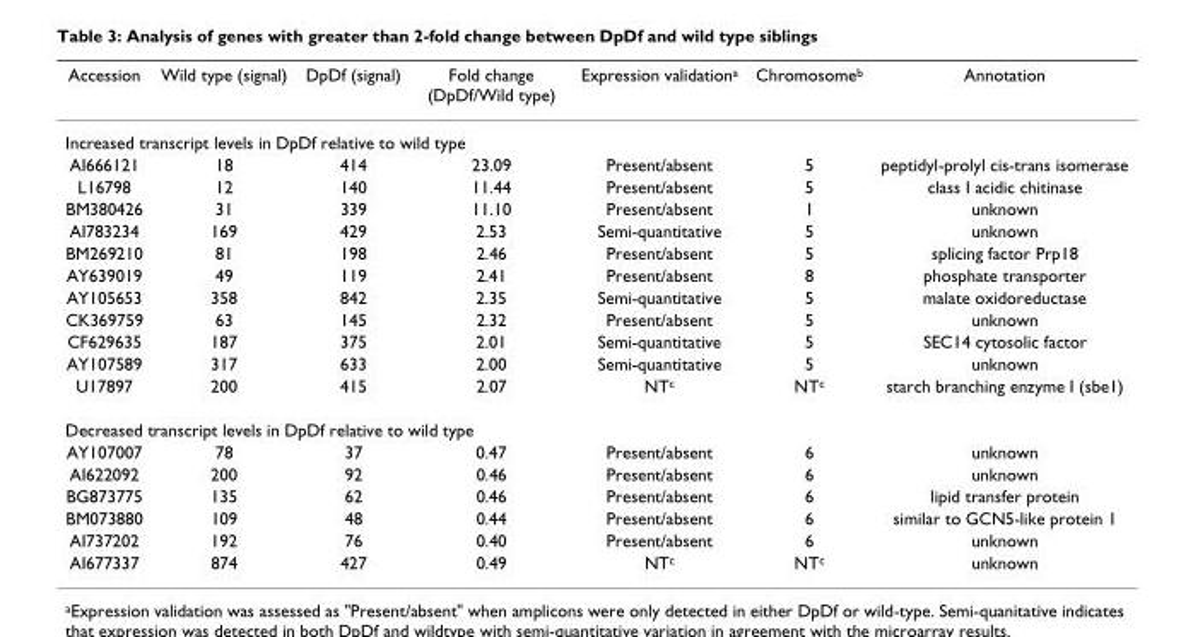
<table><thead><tr><td>Accession</td><td>Wild type (signal)</td><td>DpDf (signal)</td><td>Fold change (DpDf/Wild type)</td><td>Expression validation<sup>a</sup></td><td>Chromosome<sup>b</sup></td><td>Annotation</td></tr></thead><tbody><tr><td colspan="7">Increased transcript levels in DpDf relative to wild type</td></tr><tr><td>AI666121</td><td>18</td><td>414</td><td>23.09</td><td>Present/absent</td><td>5</td><td>peptidyl-prolyl cis-trans isomerase</td></tr><tr><td>L16798</td><td>12</td><td>140</td><td>11.44</td><td>Present/absent</td><td>5</td><td>class I acidic chitinase</td></tr><tr><td>BM380426</td><td>31</td><td>339</td><td>11.10</td><td>Present/absent</td><td>1</td><td>unknown</td></tr><tr><td>AI783234</td><td>169</td><td>429</td><td>2.53</td><td>Semi-quantitative</td><td>5</td><td>unknown</td></tr><tr><td>BM269210</td><td>81</td><td>198</td><td>2.46</td><td>Present/absent</td><td>5</td><td>splicing factor Prp18</td></tr><tr><td>AY639019</td><td>49</td><td>119</td><td>2.41</td><td>Present/absent</td><td>8</td><td>phosphate transporter</td></tr><tr><td>AY105653</td><td>358</td><td>842</td><td>2.35</td><td>Semi-quantitative</td><td>5</td><td>malate oxidoreductase</td></tr><tr><td>CK369759</td><td>63</td><td>145</td><td>2.32</td><td>Present/absent</td><td>5</td><td>unknown</td></tr><tr><td>CF629635</td><td>187</td><td>375</td><td>2.01</td><td>Semi-quantitative</td><td>5</td><td>SEC14 cytosolic factor</td></tr><tr><td>AY107589</td><td>317</td><td>633</td><td>2.00</td><td>Semi-quantitative</td><td>5</td><td>unknown</td></tr><tr><td>U17897</td><td>200</td><td>415</td><td>2.07</td><td>NT<sup>c</sup></td><td>NT<sup>c</sup></td><td>starch branching enzyme I (sbe1)</td></tr><tr><td colspan="7">Decreased transcript levels in DpDf relative to wild type</td></tr><tr><td>AY107007</td><td>78</td><td>37</td><td>0.47</td><td>Present/absent</td><td>6</td><td>unknown</td></tr><tr><td>AI622092</td><td>200</td><td>92</td><td>0.46</td><td>Present/absent</td><td>6</td><td>unknown</td></tr><tr><td>BG873775</td><td>135</td><td>62</td><td>0.46</td><td>Present/absent</td><td>6</td><td>lipid transfer protein</td></tr><tr><td>BM073880</td><td>109</td><td>48</td><td>0.44</td><td>Present/absent</td><td>6</td><td>similar to GCN5-like protein 1</td></tr><tr><td>AI737202</td><td>192</td><td>76</td><td>0.40</td><td>Present/absent</td><td>6</td><td>unknown</td></tr><tr><td>AI677337</td><td>874</td><td>427</td><td>0.49</td><td>NT<sup>c</sup></td><td>NT<sup>c</sup></td><td>unknown</td></tr></tbody></table>